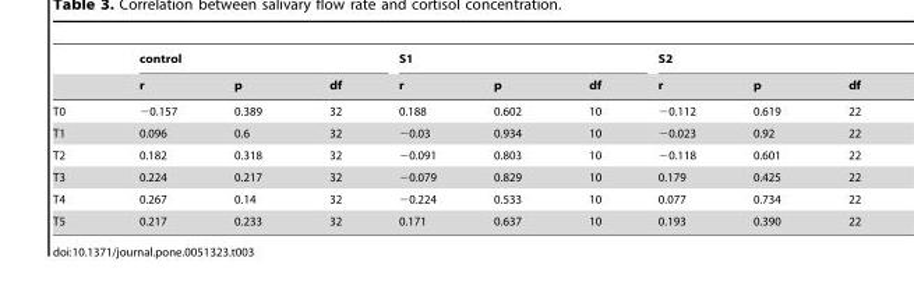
<table><thead><tr><td rowspan="2"></td><td colspan="3">control</td><td colspan="3">S1</td><td colspan="3">S2</td></tr><tr><td>r</td><td>p</td><td>df</td><td>r</td><td>p</td><td>df</td><td>r</td><td>p</td><td>df</td></tr></thead><tbody><tr><td>T0</td><td>−0.157</td><td>0.389</td><td>32</td><td>0.188</td><td>0.602</td><td>10</td><td>−0.112</td><td>0.619</td><td>22</td></tr><tr><td>T1</td><td>0.096</td><td>0.6</td><td>32</td><td>−0.03</td><td>0.934</td><td>10</td><td>−0.023</td><td>0.92</td><td>22</td></tr><tr><td>T2</td><td>0.182</td><td>0.318</td><td>32</td><td>−0.091</td><td>0.803</td><td>10</td><td>−0.118</td><td>0.601</td><td>22</td></tr><tr><td>T3</td><td>0.224</td><td>0.217</td><td>32</td><td>−0.079</td><td>0.829</td><td>10</td><td>0.179</td><td>0.425</td><td>22</td></tr><tr><td>T4</td><td>0.267</td><td>0.14</td><td>32</td><td>−0.224</td><td>0.533</td><td>10</td><td>0.077</td><td>0.734</td><td>22</td></tr><tr><td>T5</td><td>0.217</td><td>0.233</td><td>32</td><td>0.171</td><td>0.637</td><td>10</td><td>0.193</td><td>0.390</td><td>22</td></tr></tbody></table>